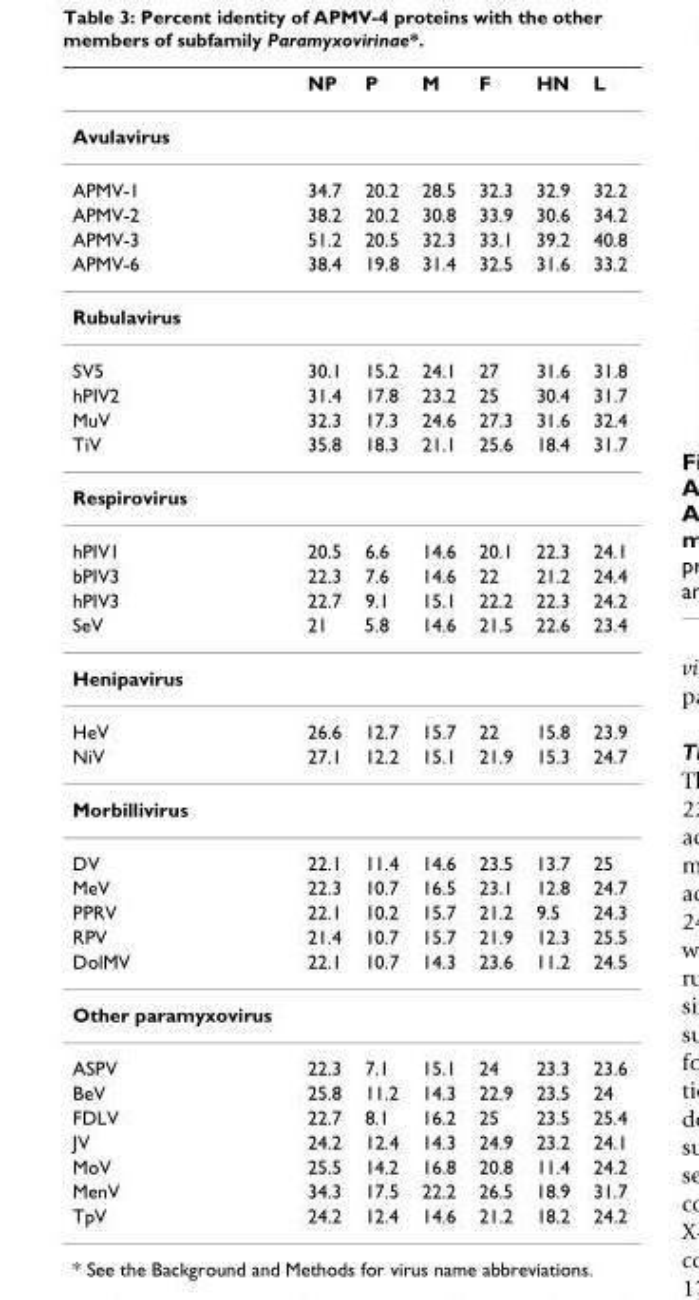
<table><thead><tr><td></td><td>NP</td><td>P</td><td>M</td><td>F</td><td>HN</td><td>L</td></tr></thead><tbody><tr><td colspan="7">Avulavirus</td></tr><tr><td>APMV-1</td><td>34.7</td><td>20.2</td><td>28.5</td><td>32.3</td><td>32.9</td><td>32.2</td></tr><tr><td>APMV-2</td><td>38.2</td><td>20.2</td><td>30.8</td><td>33.9</td><td>30.6</td><td>34.2</td></tr><tr><td>APMV-3</td><td>51.2</td><td>20.5</td><td>32.3</td><td>33.1</td><td>39.2</td><td>40.8</td></tr><tr><td>APMV-6</td><td>38.4</td><td>19.8</td><td>31.4</td><td>32.5</td><td>31.6</td><td>33.2</td></tr><tr><td colspan="7">Rubulavirus</td></tr><tr><td>SV5</td><td>30.1</td><td>15.2</td><td>24.1</td><td>27</td><td>31.6</td><td>31.8</td></tr><tr><td>hPIV2</td><td>31.4</td><td>17.8</td><td>23.2</td><td>25</td><td>30.4</td><td>31.7</td></tr><tr><td>MuV</td><td>32.3</td><td>17.3</td><td>24.6</td><td>27.3</td><td>31.6</td><td>32.4</td></tr><tr><td>TiV</td><td>35.8</td><td>18.3</td><td>21.1</td><td>25.6</td><td>18.4</td><td>31.7</td></tr><tr><td colspan="7">Respirovirus</td></tr><tr><td>hPIV1</td><td>20.5</td><td>6.6</td><td>14.6</td><td>20.1</td><td>22.3</td><td>24.1</td></tr><tr><td>bPIV3</td><td>22.3</td><td>7.6</td><td>14.6</td><td>22</td><td>21.2</td><td>24.4</td></tr><tr><td>hPIV3</td><td>22.7</td><td>9.1</td><td>15.1</td><td>22.2</td><td>22.3</td><td>24.2</td></tr><tr><td>SeV</td><td>21</td><td>5.8</td><td>14.6</td><td>21.5</td><td>22.6</td><td>23.4</td></tr><tr><td colspan="7">Henipavirus</td></tr><tr><td>HeV</td><td>26.6</td><td>12.7</td><td>15.7</td><td>22</td><td>15.8</td><td>23.9</td></tr><tr><td>NiV</td><td>27.1</td><td>12.2</td><td>15.1</td><td>21.9</td><td>15.3</td><td>24.7</td></tr><tr><td colspan="7">Morbillivirus</td></tr><tr><td>DV</td><td>22.1</td><td>11.4</td><td>14.6</td><td>23.5</td><td>13.7</td><td>25</td></tr><tr><td>MeV</td><td>22.3</td><td>10.7</td><td>16.5</td><td>23.1</td><td>12.8</td><td>24.7</td></tr><tr><td>PPRV</td><td>22.1</td><td>10.2</td><td>15.7</td><td>21.2</td><td>9.5</td><td>24.3</td></tr><tr><td>RPV</td><td>21.4</td><td>10.7</td><td>15.7</td><td>21.9</td><td>12.3</td><td>25.5</td></tr><tr><td>DolMV</td><td>22.1</td><td>10.7</td><td>14.3</td><td>23.6</td><td>11.2</td><td>24.5</td></tr><tr><td colspan="7">Other paramyxovirus</td></tr><tr><td>ASPV</td><td>22.3</td><td>7.1</td><td>15.1</td><td>24</td><td>23.3</td><td>23.6</td></tr><tr><td>BeV</td><td>25.8</td><td>11.2</td><td>14.3</td><td>22.9</td><td>23.5</td><td>24</td></tr><tr><td>FDLV</td><td>22.7</td><td>8.1</td><td>16.2</td><td>25</td><td>23.5</td><td>25.4</td></tr><tr><td>JV</td><td>24.2</td><td>12.4</td><td>14.3</td><td>24.9</td><td>23.2</td><td>24.1</td></tr><tr><td>MoV</td><td>25.5</td><td>14.2</td><td>16.8</td><td>20.8</td><td>11.4</td><td>24.2</td></tr><tr><td>MenV</td><td>34.3</td><td>17.5</td><td>22.2</td><td>26.5</td><td>18.9</td><td>31.7</td></tr><tr><td>TpV</td><td>24.2</td><td>12.4</td><td>14.6</td><td>21.2</td><td>18.2</td><td>24.2</td></tr></tbody></table>